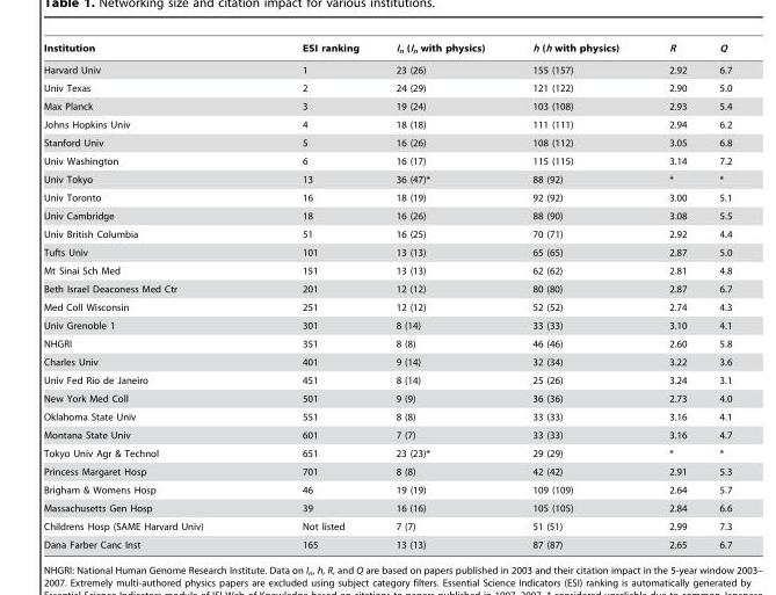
<table><thead><tr><td>Institution</td><td>ESI ranking</td><td>I<sub>n</sub> (I<sub>n</sub> with physics)</td><td>h (h with physics)</td><td>R</td><td>Q</td></tr></thead><tbody><tr><td>Harvard Univ</td><td>1</td><td>23 (26)</td><td>155 (157)</td><td>2.92</td><td>6.7</td></tr><tr><td>Univ Texas</td><td>2</td><td>24 (29)</td><td>121 (122)</td><td>2.90</td><td>5.0</td></tr><tr><td>Max Planck</td><td>3</td><td>19 (24)</td><td>103 (108)</td><td>2.93</td><td>5.4</td></tr><tr><td>Johns Hopkins Univ</td><td>4</td><td>18 (18)</td><td>111 (111)</td><td>2.94</td><td>6.2</td></tr><tr><td>Stanford Univ</td><td>5</td><td>16 (26)</td><td>108 (112)</td><td>3.05</td><td>6.8</td></tr><tr><td>Univ Washington</td><td>6</td><td>16 (17)</td><td>115 (115)</td><td>3.14</td><td>7.2</td></tr><tr><td>Univ Tokyo</td><td>13</td><td>36 (47)*</td><td>88 (92)</td><td>*</td><td>*</td></tr><tr><td>Univ Toronto</td><td>16</td><td>18 (19)</td><td>92 (92)</td><td>3.00</td><td>5.1</td></tr><tr><td>Univ Cambridge</td><td>18</td><td>16 (26)</td><td>88 (90)</td><td>3.08</td><td>5.5</td></tr><tr><td>Univ British Columbia</td><td>51</td><td>16 (25)</td><td>70 (71)</td><td>2.92</td><td>4.4</td></tr><tr><td>Tufts Univ</td><td>101</td><td>13 (13)</td><td>65 (65)</td><td>2.87</td><td>5.0</td></tr><tr><td>Mt Sinai Sch Med</td><td>151</td><td>13 (13)</td><td>62 (62)</td><td>2.81</td><td>4.8</td></tr><tr><td>Beth Israel Deaconess Med Ctr</td><td>201</td><td>12 (12)</td><td>80 (80)</td><td>2.87</td><td>6.7</td></tr><tr><td>Med Coll Wisconsin</td><td>251</td><td>12 (12)</td><td>52 (52)</td><td>2.74</td><td>4.3</td></tr><tr><td>Univ Grenoble 1</td><td>301</td><td>8 (14)</td><td>33 (33)</td><td>3.10</td><td>4.1</td></tr><tr><td>NHGRI</td><td>351</td><td>8 (8)</td><td>46 (46)</td><td>2.60</td><td>5.8</td></tr><tr><td>Charles Univ</td><td>401</td><td>9 (14)</td><td>32 (34)</td><td>3.22</td><td>3.6</td></tr><tr><td>Univ Fed Rio de Janeiro</td><td>451</td><td>8 (14)</td><td>25 (26)</td><td>3.24</td><td>3.1</td></tr><tr><td>New York Med Coll</td><td>501</td><td>9 (9)</td><td>36 (36)</td><td>2.73</td><td>4.0</td></tr><tr><td>Oklahoma State Univ</td><td>551</td><td>8 (8)</td><td>33 (33)</td><td>3.16</td><td>4.1</td></tr><tr><td>Montana State Univ</td><td>601</td><td>7 (7)</td><td>33 (33)</td><td>3.16</td><td>4.7</td></tr><tr><td>Tokyo Univ Agr &amp; Technol</td><td>651</td><td>23 (23)*</td><td>29 (29)</td><td>*</td><td>*</td></tr><tr><td>Princess Margaret Hosp</td><td>701</td><td>8 (8)</td><td>42 (42)</td><td>2.91</td><td>5.3</td></tr><tr><td>Brigham &amp; Womens Hosp</td><td>46</td><td>19 (19)</td><td>109 (109)</td><td>2.64</td><td>5.7</td></tr><tr><td>Massachusetts Gen Hosp</td><td>39</td><td>16 (16)</td><td>105 (105)</td><td>2.84</td><td>6.6</td></tr><tr><td>Childrens Hosp (SAME Harvard Univ)</td><td>Not listed</td><td>7 (7)</td><td>51 (51)</td><td>2.99</td><td>7.3</td></tr><tr><td>Dana Farber Canc Inst</td><td>165</td><td>13 (13)</td><td>87 (87)</td><td>2.65</td><td>6.7</td></tr></tbody></table>